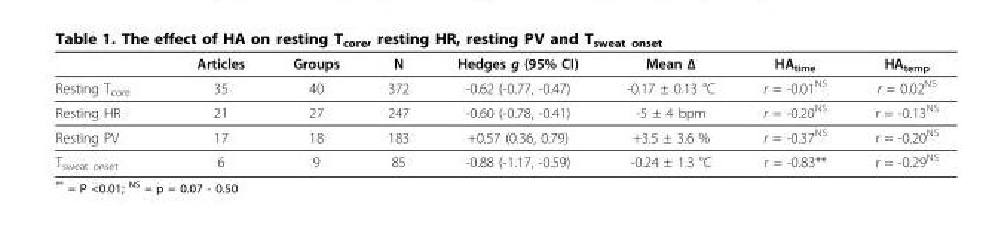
<table><thead><tr><td></td><td>Articles</td><td>Groups</td><td>N</td><td>Hedges g (95% CI)</td><td>Mean Δ</td><td>HA<sub>time</sub></td><td>HA<sub>temp</sub></td></tr></thead><tbody><tr><td>Resting T<sub>core</sub></td><td>35</td><td>40</td><td>372</td><td>-0.62 (-0.77, -0.47)</td><td>-0.17 ± 0.13 °C</td><td>r = -0.01<sup>NS</sup></td><td>r = 0.02<sup>NS</sup></td></tr><tr><td>Resting HR</td><td>21</td><td>27</td><td>247</td><td>-0.60 (-0.78, -0.41)</td><td>-5 ± 4 bpm</td><td>r = -0.20<sup>NS</sup></td><td>r = -0.13<sup>NS</sup></td></tr><tr><td>Resting PV</td><td>17</td><td>18</td><td>183</td><td>+0.57 (0.36, 0.79)</td><td>+3.5 ± 3.6 %</td><td>r = -0.37<sup>NS</sup></td><td>r = -0.20<sup>NS</sup></td></tr><tr><td>T<sub>sweat onset</sub></td><td>6</td><td>9</td><td>85</td><td>-0.88 (-1.17, -0.59)</td><td>-0.24 ± 1.3 °C</td><td>r = -0.83**</td><td>r = -0.29<sup>NS</sup></td></tr></tbody></table>